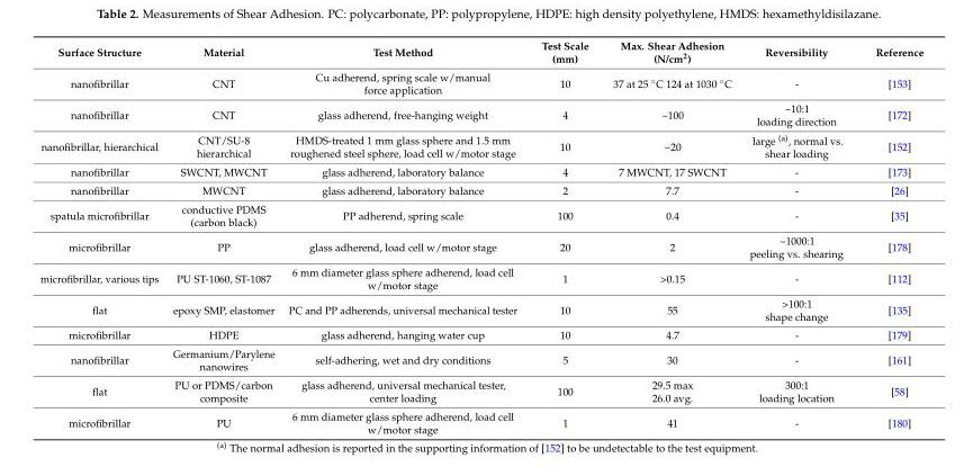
<table><thead><tr><td>Surface Structure</td><td>Material</td><td>Test Method</td><td>Test Scale (mm)</td><td>Max. Shear Adhesion (N/cm<sup>2</sup>)</td><td>Reversibility</td><td>Reference</td></tr></thead><tbody><tr><td>nanofibrillar</td><td>CNT</td><td>Cu adherend, spring scale w/manual force application</td><td>10</td><td>37 at 25 ◦C 124 at 1030 ◦C</td><td>-</td><td>[153]</td></tr><tr><td>nanofibrillar</td><td>CNT</td><td>glass adherend, free-hanging weight</td><td>4</td><td>~100</td><td>~10:1 loading direction</td><td>[172]</td></tr><tr><td>nanofibrillar, hierarchical</td><td>CNT/SU-8 hierarchical</td><td>HMDS-treated 1 mm glass sphere and 1.5 mm roughened steel sphere, load cell w/motor stage</td><td>10</td><td>~20</td><td>large <sup>(a)</sup>, normal vs. shear loading</td><td>[152]</td></tr><tr><td>nanofibrillar</td><td>SWCNT, MWCNT</td><td>glass adherend, laboratory balance</td><td>4</td><td>7 MWCNT, 17 SWCNT</td><td>-</td><td>[173]</td></tr><tr><td>nanofibrillar</td><td>MWCNT</td><td>glass adherend, laboratory balance</td><td>2</td><td>7.7</td><td>-</td><td>[26]</td></tr><tr><td>spatula microfibrillar</td><td>conductive PDMS (carbon black)</td><td>PP adherend, spring scale</td><td>100</td><td>0.4</td><td>-</td><td>[35]</td></tr><tr><td>microfibrillar</td><td>PP</td><td>glass adherend, load cell w/motor stage</td><td>20</td><td>2</td><td>~1000:1 peeling vs. shearing</td><td>[178]</td></tr><tr><td>microfibrillar, various tips</td><td>PU ST-1060, ST-1087</td><td>6 mm diameter glass sphere adherend, load cell w/motor stage</td><td>1</td><td>&gt;0.15</td><td>-</td><td>[112]</td></tr><tr><td>flat</td><td>epoxy SMP, elastomer</td><td>PC and PP adherends, universal mechanical tester</td><td>10</td><td>55</td><td>&gt;100:1 shape change</td><td>[135]</td></tr><tr><td>microfibrillar</td><td>HDPE</td><td>glass adherend, hanging water cup</td><td>10</td><td>4.7</td><td>-</td><td>[179]</td></tr><tr><td>nanofibrillar</td><td>Germanium/Parylene nanowires</td><td>self-adhering, wet and dry conditions</td><td>5</td><td>30</td><td>-</td><td>[161]</td></tr><tr><td>flat</td><td>PU or PDMS/carbon composite</td><td>glass adherend, universal mechanical tester, center loading</td><td>100</td><td>29.5 max 26.0 avg.</td><td>300:1 loading location</td><td>[58]</td></tr><tr><td>microfibrillar</td><td>PU</td><td>6 mm diameter glass sphere adherend, load cell w/motor stage</td><td>1</td><td>41</td><td>-</td><td>[180]</td></tr></tbody></table>